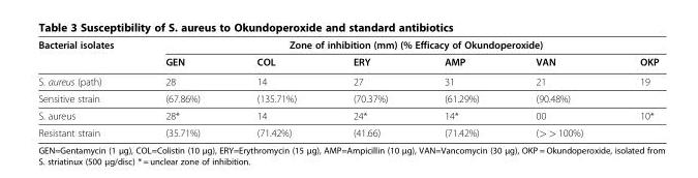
<table><thead><tr><td rowspan="2">Bacterial isolates</td><td colspan="6">Zone of inhibition (mm) (% Efficacy of Okundoperoxide)</td></tr><tr><td>GEN</td><td>COL</td><td>ERY</td><td>AMP</td><td>VAN</td><td>OKP</td></tr></thead><tbody><tr><td>S. aureus (path)</td><td>28</td><td>14</td><td>27</td><td>31</td><td>21</td><td>19</td></tr><tr><td>Sensitive strain</td><td>(67.86%)</td><td>(135.71%)</td><td>(70.37%)</td><td>(61.29%)</td><td>(90.48%)</td><td></td></tr><tr><td>S. aureus</td><td>28*</td><td>14</td><td>24*</td><td>14*</td><td>00</td><td>10*</td></tr><tr><td>Resistant strain</td><td>(35.71%)</td><td>(71.42%)</td><td>(41.66)</td><td>(71.42%)</td><td>(&gt; &gt; 100%)</td><td></td></tr></tbody></table>